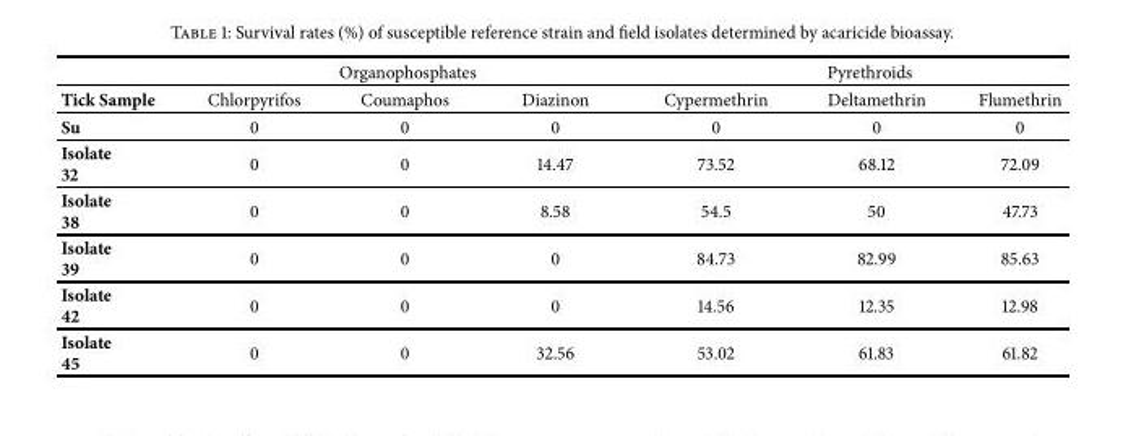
<table><thead><tr><td rowspan="2">Tick Sample</td><td colspan="3">Organophosphates</td><td colspan="3">Pyrethroids</td></tr><tr><td>Chlorpyrifos</td><td>Coumaphos</td><td>Diazinon</td><td>Cypermethrin</td><td>Deltamethrin</td><td>Flumethrin</td></tr></thead><tbody><tr><td>Su</td><td>0</td><td>0</td><td>0</td><td>0</td><td>0</td><td>0</td></tr><tr><td>Isolate 32</td><td>0</td><td>0</td><td>14.47</td><td>73.52</td><td>68.12</td><td>72.09</td></tr><tr><td>Isolate 38</td><td>0</td><td>0</td><td>8.58</td><td>54.5</td><td>50</td><td>47.73</td></tr><tr><td>Isolate 39</td><td>0</td><td>0</td><td>0</td><td>84.73</td><td>82.99</td><td>85.63</td></tr><tr><td>Isolate 42</td><td>0</td><td>0</td><td>0</td><td>14.56</td><td>12.35</td><td>12.98</td></tr><tr><td>Isolate 45</td><td>0</td><td>0</td><td>32.56</td><td>53.02</td><td>61.83</td><td>61.82</td></tr></tbody></table>